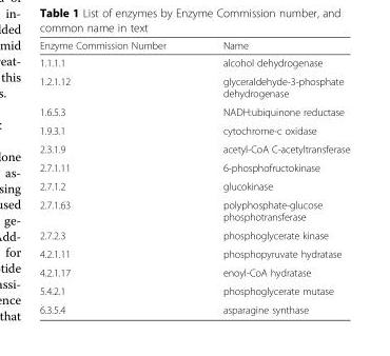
<table><thead><tr><td>Enzyme Commission Number</td><td>Name</td></tr></thead><tbody><tr><td>1.1.1.1</td><td>alcohol dehydrogenase</td></tr><tr><td>1.2.1.12</td><td>glyceraldehyde-3-phosphate dehydrogenase</td></tr><tr><td>1.6.5.3</td><td>NADH:ubiquinone reductase</td></tr><tr><td>1.9.3.1</td><td>cytochrome-c oxidase</td></tr><tr><td>2.3.1.9</td><td>acetyl-CoA C-acetyltransferase</td></tr><tr><td>2.7.1.11</td><td>6-phosphofructokinase</td></tr><tr><td>2.7.1.2</td><td>glucokinase</td></tr><tr><td>2.7.1.63</td><td>polyphosphate-glucose phosphotransferase</td></tr><tr><td>2.7.2.3</td><td>phosphoglycerate kinase</td></tr><tr><td>4.2.1.11</td><td>phosphopyruvate hydratase</td></tr><tr><td>4.2.1.17</td><td>enoyl-CoA hydratase</td></tr><tr><td>5.4.2.1</td><td>phosphoglycerate mutase</td></tr><tr><td>6.3.5.4</td><td>asparagine synthase</td></tr></tbody></table>